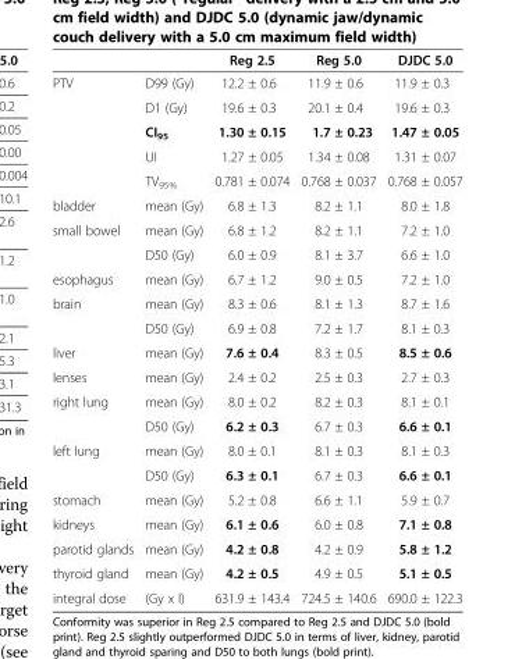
<table><thead><tr><td></td><td></td><td>Reg 2.5</td><td>Reg 5.0</td><td>DJDC 5.0</td></tr></thead><tbody><tr><td rowspan="5">PTV</td><td>D99 (Gy)</td><td>12.2 ± 0.6</td><td>11.9 ± 0.6</td><td>11.9 ± 0.3</td></tr><tr><td>D1 (Gy)</td><td>19.6 ± 0.3</td><td>20.1 ± 0.4</td><td>19.6 ± 0.3</td></tr><tr><td>CI<sub>95</sub></td><td>1.30 ± 0.15</td><td>1.7 ± 0.23</td><td>1.47 ± 0.05</td></tr><tr><td>UI</td><td>1.27 ± 0.05</td><td>1.34 ± 0.08</td><td>1.31 ± 0.07</td></tr><tr><td>TV<sub>95%</sub></td><td>0.781 ± 0.074</td><td>0.768 ± 0.037</td><td>0.768 ± 0.057</td></tr><tr><td>bladder</td><td>mean (Gy)</td><td>6.8 ± 1.3</td><td>8.2 ± 1.1</td><td>8.0 ± 1.8</td></tr><tr><td rowspan="2">small bowel</td><td>mean (Gy)</td><td>6.8 ± 1.2</td><td>8.2 ± 1.1</td><td>7.2 ± 1.0</td></tr><tr><td>D50 (Gy)</td><td>6.0 ± 0.9</td><td>8.1 ± 3.7</td><td>6.6 ± 1.0</td></tr><tr><td>esophagus</td><td>mean (Gy)</td><td>6.7 ± 1.2</td><td>9.0 ± 0.5</td><td>7.2 ± 1.0</td></tr><tr><td rowspan="2">brain</td><td>mean (Gy)</td><td>8.3 ± 0.6</td><td>8.1 ± 1.3</td><td>8.7 ± 1.6</td></tr><tr><td>D50 (Gy)</td><td>6.9 ± 0.8</td><td>7.2 ± 1.7</td><td>8.1 ± 0.3</td></tr><tr><td>liver</td><td>mean (Gy)</td><td>7.6 ± 0.4</td><td>8.3 ± 0.5</td><td>8.5 ± 0.6</td></tr><tr><td>lenses</td><td>mean (Gy)</td><td>2.4 ± 0.2</td><td>2.5 ± 0.3</td><td>2.7 ± 0.3</td></tr><tr><td rowspan="2">right lung</td><td>mean (Gy)</td><td>8.0 ± 0.2</td><td>8.2 ± 0.3</td><td>8.1 ± 0.1</td></tr><tr><td>D50 (Gy)</td><td>6.2 ± 0.3</td><td>6.7 ± 0.3</td><td>6.6 ± 0.1</td></tr><tr><td rowspan="2">left lung</td><td>mean (Gy)</td><td>8.0 ± 0.1</td><td>8.1 ± 0.3</td><td>8.1 ± 0.3</td></tr><tr><td>D50 (Gy)</td><td>6.3 ± 0.1</td><td>6.7 ± 0.3</td><td>6.6 ± 0.1</td></tr><tr><td>stomach</td><td>mean (Gy)</td><td>5.2 ± 0.8</td><td>6.6 ± 1.1</td><td>5.9 ± 0.7</td></tr><tr><td>kidneys</td><td>mean (Gy)</td><td>6.1 ± 0.6</td><td>6.0 ± 0.8</td><td>7.1 ± 0.8</td></tr><tr><td>parotid glands</td><td>mean (Gy)</td><td>4.2 ± 0.8</td><td>4.2 ± 0.9</td><td>5.8 ± 1.2</td></tr><tr><td>thyroid gland</td><td>mean (Gy)</td><td>4.2 ± 0.5</td><td>4.9 ± 0.5</td><td>5.1 ± 0.5</td></tr><tr><td>integral dose</td><td>(Gy x l)</td><td>631.9 ± 143.4</td><td>724.5 ± 140.6</td><td>690.0 ± 122.3</td></tr></tbody></table>